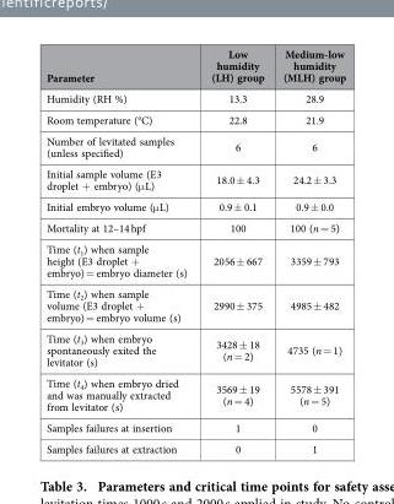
<table><thead><tr><td>Parameter</td><td>Low humidity (LH) group</td><td>Medium-low humidity (MLH) group</td></tr></thead><tbody><tr><td>Humidity (RH %)</td><td>13.3</td><td>28.9</td></tr><tr><td>Room temperature (°C)</td><td>22.8</td><td>21.9</td></tr><tr><td>Number of levitated samples (unless specified)</td><td>6</td><td>6</td></tr><tr><td>Initial sample volume (E3 droplet + embryo) (μ L)</td><td>18.0 ± 4.3</td><td>24.2 ± 3.3</td></tr><tr><td>Initial embryo volume (μ L)</td><td>0.9 ± 0.1</td><td>0.9 ± 0.0</td></tr><tr><td>Mortality at 12–14 hpf</td><td>100</td><td>100 (n = 5)</td></tr><tr><td>Time (t<sub>1</sub>) when sample height (E3 droplet + embryo) = embryo diameter (s)</td><td>2056 ± 667</td><td>3359 ± 793</td></tr><tr><td>Time (t<sub>2</sub>) when sample volume (E3 droplet + embryo) = embryo volume (s)</td><td>2990 ± 375</td><td>4985 ± 482</td></tr><tr><td>Time (t<sub>3</sub>) when embryo spontaneously exited the levitator (s)</td><td>3428 ± 18 (n = 2)</td><td>4735 (n = 1)</td></tr><tr><td>Time (t<sub>4</sub>) when embryo dried and was manually extracted from levitator (s)</td><td>3569 ± 19 (n = 4)</td><td>5578 ± 391 (n = 5)</td></tr><tr><td>Samples failures at insertion</td><td>1</td><td>0</td></tr><tr><td>Samples failures at extraction</td><td>0</td><td>1</td></tr></tbody></table>